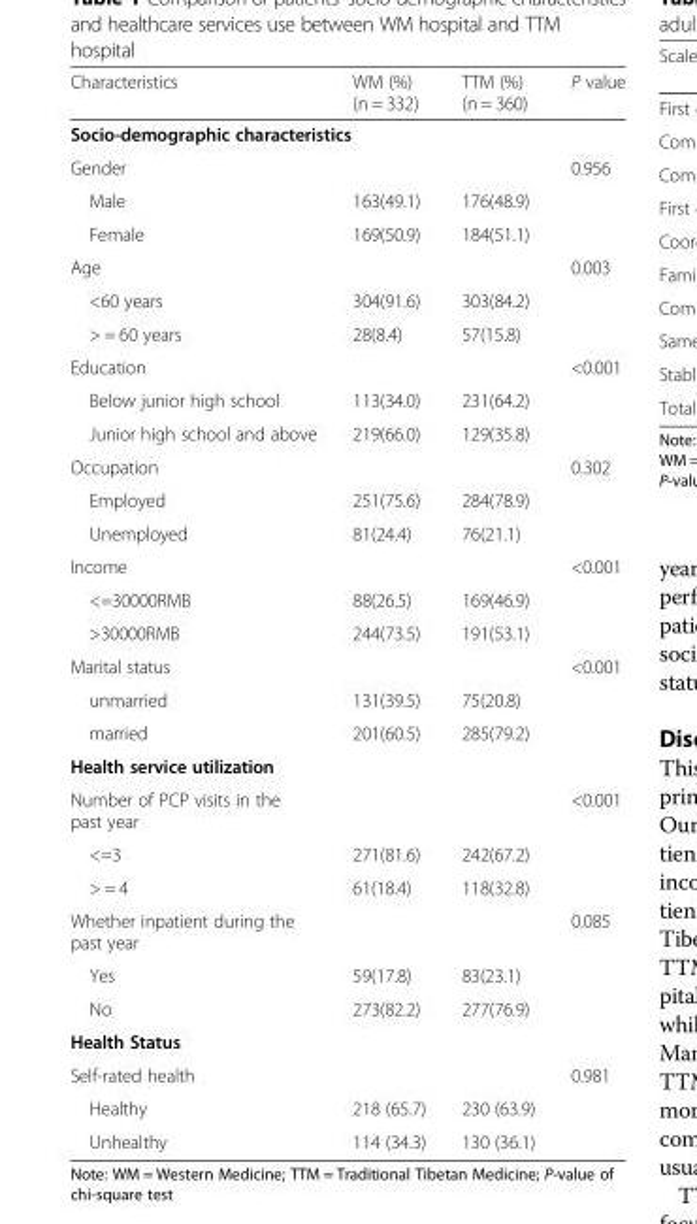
<table><thead><tr><td>Characteristics</td><td>WM (%) (n = 332)</td><td>TTM (%) (n = 360)</td><td>P value</td></tr></thead><tbody><tr><td colspan="4">Socio-demographic characteristics</td></tr><tr><td>Gender</td><td></td><td></td><td>0.956</td></tr><tr><td>Male</td><td>163(49.1)</td><td>176(48.9)</td><td></td></tr><tr><td>Female</td><td>169(50.9)</td><td>184(51.1)</td><td></td></tr><tr><td>Age</td><td></td><td></td><td>0.003</td></tr><tr><td>&lt;60 years</td><td>304(91.6)</td><td>303(84.2)</td><td></td></tr><tr><td>&gt; = 60 years</td><td>28(8.4)</td><td>57(15.8)</td><td></td></tr><tr><td>Education</td><td></td><td></td><td>&lt;0.001</td></tr><tr><td>Below junior high school</td><td>113(34.0)</td><td>231(64.2)</td><td></td></tr><tr><td>Junior high school and above</td><td>219(66.0)</td><td>129(35.8)</td><td></td></tr><tr><td>Occupation</td><td></td><td></td><td>0.302</td></tr><tr><td>Employed</td><td>251(75.6)</td><td>284(78.9)</td><td></td></tr><tr><td>Unemployed</td><td>81(24.4)</td><td>76(21.1)</td><td></td></tr><tr><td>Income</td><td></td><td></td><td>&lt;0.001</td></tr><tr><td>&lt;=30000RMB</td><td>88(26.5)</td><td>169(46.9)</td><td></td></tr><tr><td>&gt;30000RMB</td><td>244(73.5)</td><td>191(53.1)</td><td></td></tr><tr><td>Marital status</td><td></td><td></td><td>&lt;0.001</td></tr><tr><td>unmarried</td><td>131(39.5)</td><td>75(20.8)</td><td></td></tr><tr><td>married</td><td>201(60.5)</td><td>285(79.2)</td><td></td></tr><tr><td colspan="4">Health service utilization</td></tr><tr><td>Number of PCP visits in the past year</td><td></td><td></td><td>&lt;0.001</td></tr><tr><td>&lt;=3</td><td>271(81.6)</td><td>242(67.2)</td><td></td></tr><tr><td>&gt; = 4</td><td>61(18.4)</td><td>118(32.8)</td><td></td></tr><tr><td>Whether inpatient during the past year</td><td></td><td></td><td>0.085</td></tr><tr><td>Yes</td><td>59(17.8)</td><td>83(23.1)</td><td></td></tr><tr><td>No</td><td>273(82.2)</td><td>277(76.9)</td><td></td></tr><tr><td colspan="4">Health Status</td></tr><tr><td>Self-rated health</td><td></td><td></td><td>0.981</td></tr><tr><td>Healthy</td><td>218 (65.7)</td><td>230 (63.9)</td><td></td></tr><tr><td>Unhealthy</td><td>114 (34.3)</td><td>130 (36.1)</td><td></td></tr></tbody></table>